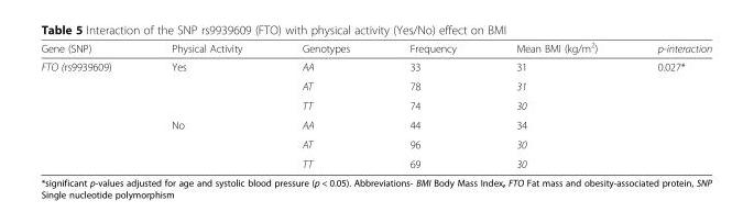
<table><thead><tr><td>Gene (SNP)</td><td>Physical Activity</td><td>Genotypes</td><td>Frequency</td><td>Mean BMI (kg/m<sup>2</sup>)</td><td>p-interaction</td></tr></thead><tbody><tr><td rowspan="6">FTO (rs9939609)</td><td rowspan="3">Yes</td><td>AA</td><td>33</td><td>31</td><td rowspan="6">0.027*</td></tr><tr><td>AT</td><td>78</td><td>31</td></tr><tr><td>TT</td><td>74</td><td>30</td></tr><tr><td rowspan="3">No</td><td>AA</td><td>44</td><td>34</td></tr><tr><td>AT</td><td>96</td><td>30</td></tr><tr><td>TT</td><td>69</td><td>30</td></tr></tbody></table>